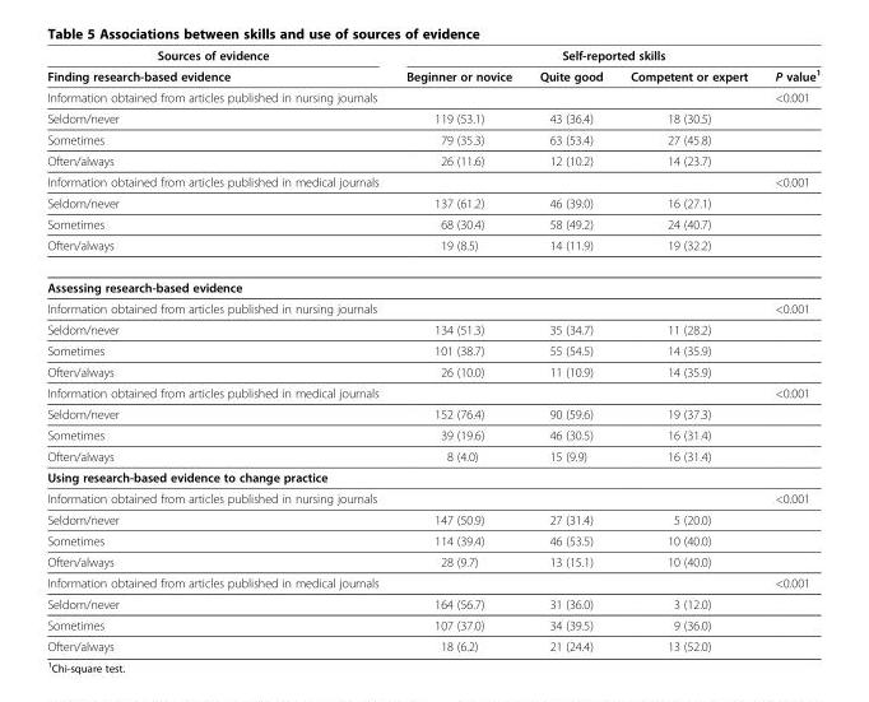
<table><thead><tr><td rowspan="2">Sources of evidence Finding research-based evidence</td><td colspan="4">Self-reported skills</td></tr><tr><td>Beginner or novice</td><td>Quite good</td><td>Competent or expert</td><td>P value<sup>1</sup></td></tr></thead><tbody><tr><td>Information obtained from articles published in nursing journals</td><td></td><td></td><td></td><td>&lt;0.001</td></tr><tr><td>Seldom/never</td><td>119 (53.1)</td><td>43 (36.4)</td><td>18 (30.5)</td><td></td></tr><tr><td>Sometimes</td><td>79 (35.3)</td><td>63 (53.4)</td><td>27 (45.8)</td><td></td></tr><tr><td>Often/always</td><td>26 (11.6)</td><td>12 (10.2)</td><td>14 (23.7)</td><td></td></tr><tr><td>Information obtained from articles published in medical journals</td><td></td><td></td><td></td><td>&lt;0.001</td></tr><tr><td>Seldom/never</td><td>137 (61.2)</td><td>46 (39.0)</td><td>16 (27.1)</td><td></td></tr><tr><td>Sometimes</td><td>68 (30.4)</td><td>58 (49.2)</td><td>24 (40.7)</td><td></td></tr><tr><td>Often/always</td><td>19 (8.5)</td><td>14 (11.9)</td><td>19 (32.2)</td><td></td></tr><tr><td colspan="5">Assessing research-based evidence</td></tr><tr><td>Information obtained from articles published in nursing journals</td><td></td><td></td><td></td><td>&lt;0.001</td></tr><tr><td>Seldom/never</td><td>134 (51.3)</td><td>35 (34.7)</td><td>11 (28.2)</td><td></td></tr><tr><td>Sometimes</td><td>101 (38.7)</td><td>55 (54.5)</td><td>14 (35.9)</td><td></td></tr><tr><td>Often/always</td><td>26 (10.0)</td><td>11 (10.9)</td><td>14 (35.9)</td><td></td></tr><tr><td>Information obtained from articles published in medical journals</td><td></td><td></td><td></td><td>&lt;0.001</td></tr><tr><td>Seldom/never</td><td>152 (76.4)</td><td>90 (59.6)</td><td>19 (37.3)</td><td></td></tr><tr><td>Sometimes</td><td>39 (19.6)</td><td>46 (30.5)</td><td>16 (31.4)</td><td></td></tr><tr><td>Often/always</td><td>8 (4.0)</td><td>15 (9.9)</td><td>16 (31.4)</td><td></td></tr><tr><td colspan="5">Using research-based evidence to change practice</td></tr><tr><td>Information obtained from articles published in nursing journals</td><td></td><td></td><td></td><td>&lt;0.001</td></tr><tr><td>Seldom/never</td><td>147 (50.9)</td><td>27 (31.4)</td><td>5 (20.0)</td><td></td></tr><tr><td>Sometimes</td><td>114 (39.4)</td><td>46 (53.5)</td><td>10 (40.0)</td><td></td></tr><tr><td>Often/always</td><td>28 (9.7)</td><td>13 (15.1)</td><td>10 (40.0)</td><td></td></tr><tr><td>Information obtained from articles published in medical journals</td><td></td><td></td><td></td><td>&lt;0.001</td></tr><tr><td>Seldom/never</td><td>164 (56.7)</td><td>31 (36.0)</td><td>3 (12.0)</td><td></td></tr><tr><td>Sometimes</td><td>107 (37.0)</td><td>34 (39.5)</td><td>9 (36.0)</td><td></td></tr><tr><td>Often/always</td><td>18 (6.2)</td><td>21 (24.4)</td><td>13 (52.0)</td><td></td></tr></tbody></table>